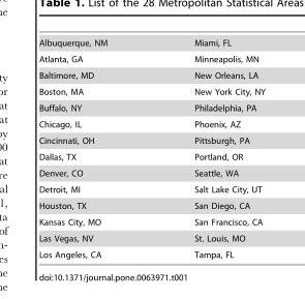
<table><tbody><tr><td>Albuquerque, NM</td><td>Miami, FL</td></tr><tr><td>Atlanta, GA</td><td>Minneapolis, MN</td></tr><tr><td>Baltimore, MD</td><td>New Orleans, LA</td></tr><tr><td>Boston, MA</td><td>New York City, NY</td></tr><tr><td>Buffalo, NY</td><td>Philadelphia, PA</td></tr><tr><td>Chicago, IL</td><td>Phoenix, AZ</td></tr><tr><td>Cincinnati, OH</td><td>Pittsburgh, PA</td></tr><tr><td>Dallas, TX</td><td>Portland, OR</td></tr><tr><td>Denver, CO</td><td>Seattle, WA</td></tr><tr><td>Detroit, MI</td><td>Salt Lake City, UT</td></tr><tr><td>Houston, TX</td><td>San Diego, CA</td></tr><tr><td>Kansas City, MO</td><td>San Francisco, CA</td></tr><tr><td>Las Vegas, NV</td><td>St. Louis, MO</td></tr><tr><td>Los Angeles, CA</td><td>Tampa, FL</td></tr></tbody></table>